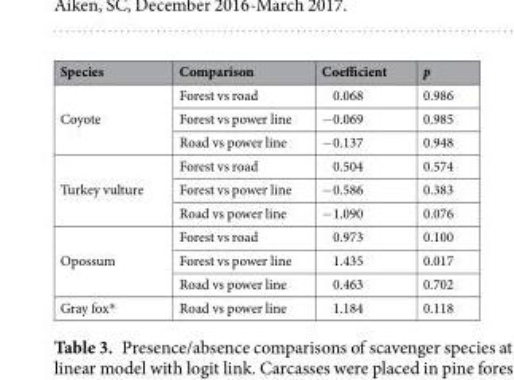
<table><thead><tr><td>Species</td><td>Comparison</td><td>Coefficient</td><td>p</td></tr></thead><tbody><tr><td rowspan="3">Coyote</td><td>Forest vs road</td><td>0.068</td><td>0.986</td></tr><tr><td>Forest vs power line</td><td>−0.069</td><td>0.985</td></tr><tr><td>Road vs power line</td><td>−0.137</td><td>0.948</td></tr><tr><td rowspan="3">Turkey vulture</td><td>Forest vs road</td><td>0.504</td><td>0.574</td></tr><tr><td>Forest vs power line</td><td>−0.586</td><td>0.383</td></tr><tr><td>Road vs power line</td><td>−1.090</td><td>0.076</td></tr><tr><td rowspan="3">Opossum</td><td>Forest vs road</td><td>0.973</td><td>0.100</td></tr><tr><td>Forest vs power line</td><td>1.435</td><td>0.017</td></tr><tr><td>Road vs power line</td><td>0.463</td><td>0.702</td></tr><tr><td>Gray fox*</td><td>Road vs power line</td><td>1.184</td><td>0.118</td></tr></tbody></table>